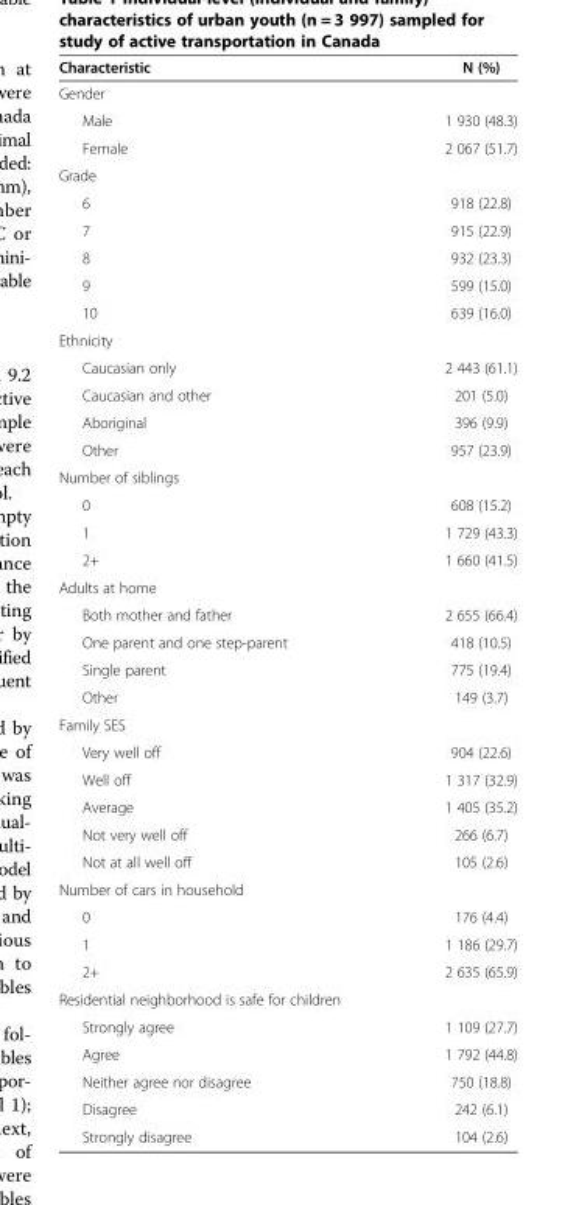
<table><thead><tr><td>Characteristic</td><td>N (%)</td></tr></thead><tbody><tr><td colspan="2">Gender</td></tr><tr><td>Male</td><td>1 930 (48.3)</td></tr><tr><td>Female</td><td>2 067 (51.7)</td></tr><tr><td colspan="2">Grade</td></tr><tr><td>6</td><td>918 (22.8)</td></tr><tr><td>7</td><td>915 (22.9)</td></tr><tr><td>8</td><td>932 (23.3)</td></tr><tr><td>9</td><td>599 (15.0)</td></tr><tr><td>10</td><td>639 (16.0)</td></tr><tr><td colspan="2">Ethnicity</td></tr><tr><td>Caucasian only</td><td>2 443 (61.1)</td></tr><tr><td>Caucasian and other</td><td>201 (5.0)</td></tr><tr><td>Aboriginal</td><td>396 (9.9)</td></tr><tr><td>Other</td><td>957 (23.9)</td></tr><tr><td colspan="2">Number of siblings</td></tr><tr><td>0</td><td>608 (15.2)</td></tr><tr><td>1</td><td>1 729 (43.3)</td></tr><tr><td>2+</td><td>1 660 (41.5)</td></tr><tr><td colspan="2">Adults at home</td></tr><tr><td>Both mother and father</td><td>2 655 (66.4)</td></tr><tr><td>One parent and one step-parent</td><td>418 (10.5)</td></tr><tr><td>Single parent</td><td>775 (19.4)</td></tr><tr><td>Other</td><td>149 (3.7)</td></tr><tr><td colspan="2">Family SES</td></tr><tr><td>Very well off</td><td>904 (22.6)</td></tr><tr><td>Well off</td><td>1 317 (32.9)</td></tr><tr><td>Average</td><td>1 405 (35.2)</td></tr><tr><td>Not very well off</td><td>266 (6.7)</td></tr><tr><td>Not at all well off</td><td>105 (2.6)</td></tr><tr><td colspan="2">Number of cars in household</td></tr><tr><td>0</td><td>176 (4.4)</td></tr><tr><td>1</td><td>1 186 (29.7)</td></tr><tr><td>2+</td><td>2 635 (65.9)</td></tr><tr><td colspan="2">Residential neighborhood is safe for children</td></tr><tr><td>Strongly agree</td><td>1 109 (27.7)</td></tr><tr><td>Agree</td><td>1 792 (44.8)</td></tr><tr><td>Neither agree nor disagree</td><td>750 (18.8)</td></tr><tr><td>Disagree</td><td>242 (6.1)</td></tr><tr><td>Strongly disagree</td><td>104 (2.6)</td></tr></tbody></table>